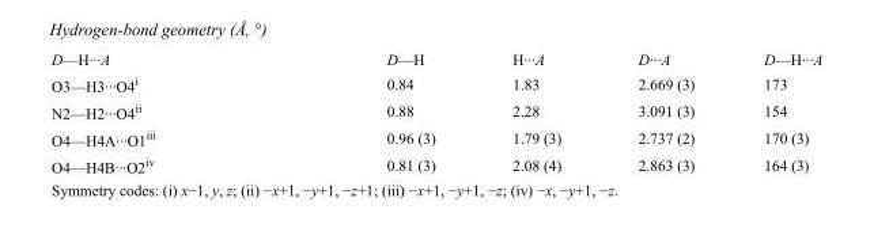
<table><tbody><tr><td>D—H···A</td><td>D—H</td><td>H···A</td><td>D···A</td><td>D—H···A</td></tr><tr><td>O3—H3···O4<sup>i</sup></td><td>0.84</td><td>1.83</td><td>2.669 (3)</td><td>173</td></tr><tr><td>N2—H2···O4<sup>ii</sup></td><td>0.88</td><td>2.28</td><td>3.091 (3)</td><td>154</td></tr><tr><td>O4—H4A···O1<sup>iii</sup></td><td>0.96 (3)</td><td>1.79 (3)</td><td>2.737 (2)</td><td>170 (3)</td></tr><tr><td>O4—H4B···O2<sup>iv</sup></td><td>0.81 (3)</td><td>2.08 (4)</td><td>2.863 (3)</td><td>164 (3)</td></tr></tbody></table>